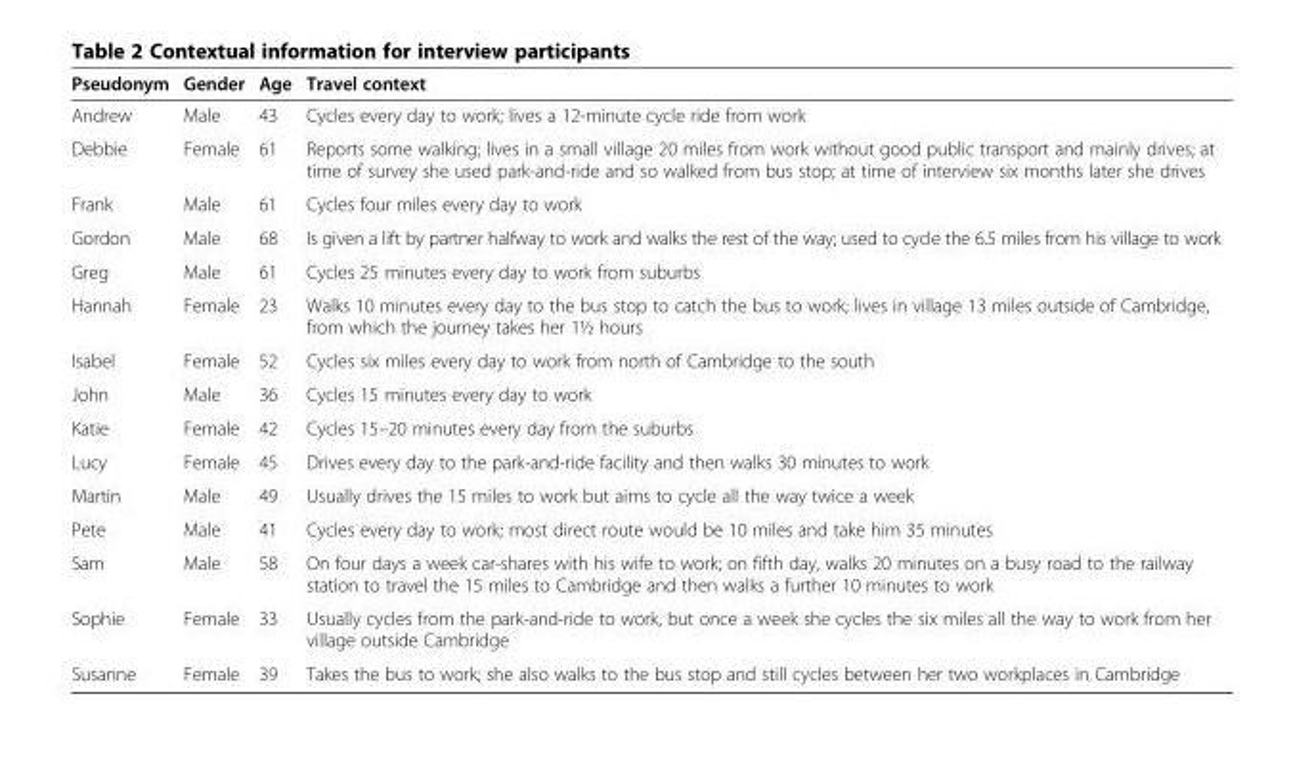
<table><thead><tr><td>Pseudonym</td><td>Gender</td><td>Age</td><td>Travel context</td></tr></thead><tbody><tr><td>Andrew</td><td>Male</td><td>43</td><td>Cycles every day to work; lives a 12-minute cycle ride from work</td></tr><tr><td>Debbie</td><td>Female</td><td>61</td><td>Reports some walking; lives in a small village 20 miles from work without good public transport and mainly drives; at time of survey she used park-and-ride and so walked from bus stop; at time of interview six months later she drives</td></tr><tr><td>Frank</td><td>Male</td><td>61</td><td>Cycles four miles every day to work</td></tr><tr><td>Gordon</td><td>Male</td><td>68</td><td>Is given a lift by partner halfway to work and walks the rest of the way; used to cycle the 6.5 miles from his village to work</td></tr><tr><td>Greg</td><td>Male</td><td>61</td><td>Cycles 25 minutes every day to work from suburbs</td></tr><tr><td>Hannah</td><td>Female</td><td>23</td><td>Walks 10 minutes every day to the bus stop to catch the bus to work; lives in village 13 miles outside of Cambridge, from which the journey takes her 1½ hours</td></tr><tr><td>Isabel</td><td>Female</td><td>52</td><td>Cycles six miles every day to work from north of Cambridge to the south</td></tr><tr><td>John</td><td>Male</td><td>36</td><td>Cycles 15 minutes every day to work</td></tr><tr><td>Katie</td><td>Female</td><td>42</td><td>Cycles 15–20 minutes every day from the suburbs</td></tr><tr><td>Lucy</td><td>Female</td><td>45</td><td>Drives every day to the park-and-ride facility and then walks 30 minutes to work</td></tr><tr><td>Martin</td><td>Male</td><td>49</td><td>Usually drives the 15 miles to work but aims to cycle all the way twice a week</td></tr><tr><td>Pete</td><td>Male</td><td>41</td><td>Cycles every day to work; most direct route would be 10 miles and take him 35 minutes</td></tr><tr><td>Sam</td><td>Male</td><td>58</td><td>On four days a week car-shares with his wife to work; on fifth day, walks 20 minutes on a busy road to the railway station to travel the 15 miles to Cambridge and then walks a further 10 minutes to work</td></tr><tr><td>Sophie</td><td>Female</td><td>33</td><td>Usually cycles from the park-and-ride to work, but once a week she cycles the six miles all the way to work from her village outside Cambridge</td></tr><tr><td>Susanne</td><td>Female</td><td>39</td><td>Takes the bus to work; she also walks to the bus stop and still cycles between her two workplaces in Cambridge</td></tr></tbody></table>